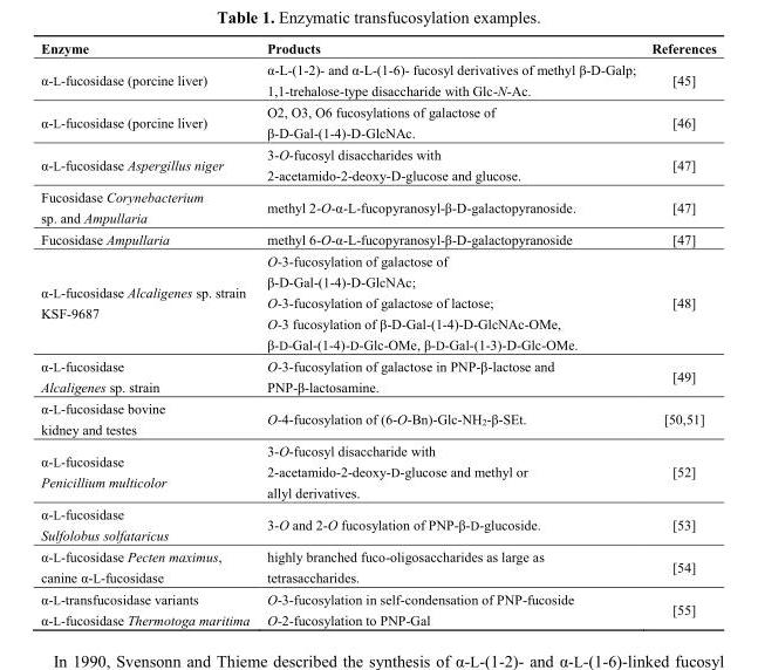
<table><thead><tr><td>Enzyme</td><td>Products</td><td>References</td></tr></thead><tbody><tr><td>α-L-fucosidase (porcine liver)</td><td>α-L-(1-2)- and α-L-(1-6)- fucosyl derivatives of methyl β-D-Galp; 1,1-trehalose-type disaccharide with Glc-N-Ac.</td><td>[45]</td></tr><tr><td>α-L-fucosidase (porcine liver)</td><td>O2, O3, O6 fucosylations of galactose of β-D-Gal-(1-4)-D-GlcNAc.</td><td>[46]</td></tr><tr><td>α-L-fucosidase Aspergillus niger</td><td>3-O-fucosyl disaccharides with 2-acetamido-2-deoxy-D-glucose and glucose.</td><td>[47]</td></tr><tr><td>Fucosidase Corynebacterium sp. and Ampullaria</td><td>methyl 2-O-α-L-fucopyranosyl-β-D-galactopyranoside.</td><td>[47]</td></tr><tr><td>Fucosidase Ampullaria</td><td>methyl 6-O-α-L-fucopyranosyl-β-D-galactopyranoside</td><td>[47]</td></tr><tr><td>α-L-fucosidase Alcaligenes sp. strain KSF-9687</td><td>O-3-fucosylation of galactose of β-D-Gal-(1-4)-D-GlcNAc; O-3-fucosylation of galactose of lactose; O-3 fucosylation of β-D-Gal-(1-4)-D-GlcNAc-OMe, β-D-Gal-(1-4)-D-Glc-OMe, β-D-Gal-(1-3)-D-Glc-OMe.</td><td>[48]</td></tr><tr><td>α-L-fucosidase Alcaligenes sp. strain</td><td>O-3-fucosylation of galactose in PNP-β-lactose and PNP-β-lactosamine.</td><td>[49]</td></tr><tr><td>α-L-fucosidase bovine kidney and testes</td><td>O-4-fucosylation of (6-O-Bn)-Glc-NH<sub>2</sub>-β-SEt.</td><td>[50,51]</td></tr><tr><td>α-L-fucosidase Penicillium multicolor</td><td>3-O-fucosyl disaccharide with 2-acetamido-2-deoxy-D-glucose and methyl or allyl derivatives.</td><td>[52]</td></tr><tr><td>α-L-fucosidase Sulfolobus solfataricus</td><td>3-O and 2-O fucosylation of PNP-β-D-glucoside.</td><td>[53]</td></tr><tr><td>α-L-fucosidase Pecten maximus, canine α-L-fucosidase</td><td>highly branched fuco-oligosaccharides as large as tetrasaccharides.</td><td>[54]</td></tr><tr><td>α-L-transfucosidase variants α-L-fucosidase Thermotoga maritima</td><td>O-3-fucosylation in self-condensation of PNP-fucoside O-2-fucosylation to PNP-Gal</td><td>[55]</td></tr></tbody></table>